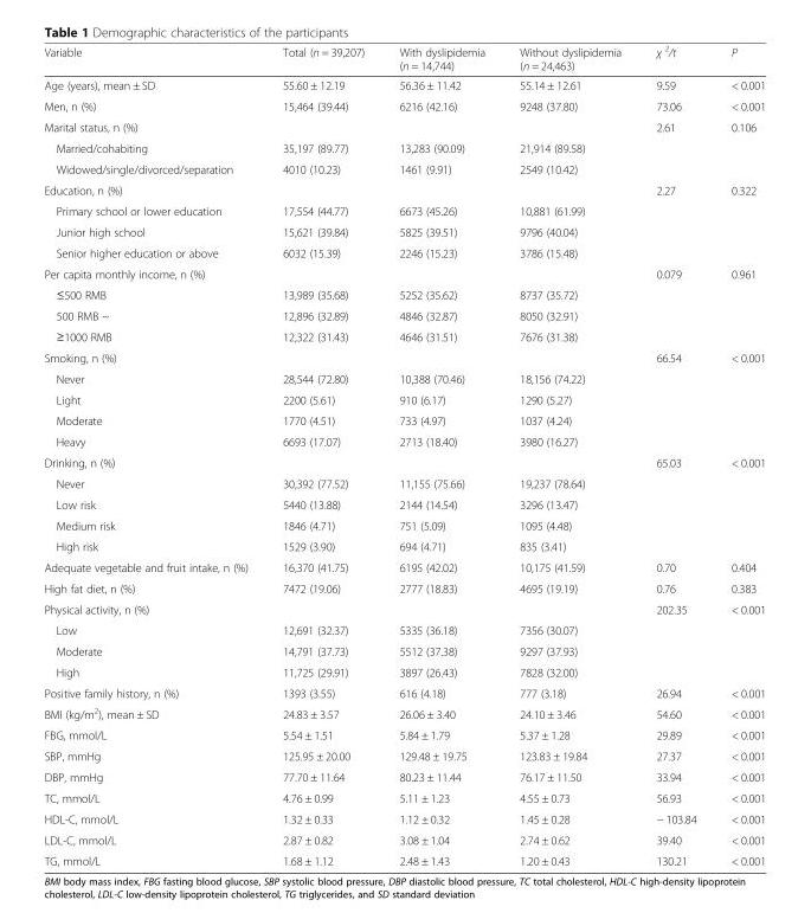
<table><thead><tr><td>Variable</td><td>Total (n = 39,207)</td><td>With dyslipidemia (n = 14,744)</td><td>Without dyslipidemia (n = 24,463)</td><td>χ <sup>2</sup>/t</td><td>P</td></tr></thead><tbody><tr><td>Age (years), mean ± SD</td><td>55.60 ± 12.19</td><td>56.36 ± 11.42</td><td>55.14 ± 12.61</td><td>9.59</td><td>&lt; 0.001</td></tr><tr><td>Men, n (%)</td><td>15,464 (39.44)</td><td>6216 (42.16)</td><td>9248 (37.80)</td><td>73.06</td><td>&lt; 0.001</td></tr><tr><td>Marital status, n (%)</td><td></td><td></td><td></td><td>2.61</td><td>0.106</td></tr><tr><td>Married/cohabiting</td><td>35,197 (89.77)</td><td>13,283 (90.09)</td><td>21,914 (89.58)</td><td></td><td></td></tr><tr><td>Widowed/single/divorced/separation</td><td>4010 (10.23)</td><td>1461 (9.91)</td><td>2549 (10.42)</td><td></td><td></td></tr><tr><td>Education, n (%)</td><td></td><td></td><td></td><td>2.27</td><td>0.322</td></tr><tr><td>Primary school or lower education</td><td>17,554 (44.77)</td><td>6673 (45.26)</td><td>10,881 (61.99)</td><td></td><td></td></tr><tr><td>Junior high school</td><td>15,621 (39.84)</td><td>5825 (39.51)</td><td>9796 (40.04)</td><td></td><td></td></tr><tr><td>Senior higher education or above</td><td>6032 (15.39)</td><td>2246 (15.23)</td><td>3786 (15.48)</td><td></td><td></td></tr><tr><td>Per capita monthly income, n (%)</td><td></td><td></td><td></td><td>0.079</td><td>0.961</td></tr><tr><td>≤500 RMB</td><td>13,989 (35.68)</td><td>5252 (35.62)</td><td>8737 (35.72)</td><td></td><td></td></tr><tr><td>500 RMB ~</td><td>12,896 (32.89)</td><td>4846 (32.87)</td><td>8050 (32.91)</td><td></td><td></td></tr><tr><td>≥1000 RMB</td><td>12,322 (31.43)</td><td>4646 (31.51)</td><td>7676 (31.38)</td><td></td><td></td></tr><tr><td>Smoking, n (%)</td><td></td><td></td><td></td><td>66.54</td><td>&lt; 0.001</td></tr><tr><td>Never</td><td>28,544 (72.80)</td><td>10,388 (70.46)</td><td>18,156 (74.22)</td><td></td><td></td></tr><tr><td>Light</td><td>2200 (5.61)</td><td>910 (6.17)</td><td>1290 (5.27)</td><td></td><td></td></tr><tr><td>Moderate</td><td>1770 (4.51)</td><td>733 (4.97)</td><td>1037 (4.24)</td><td></td><td></td></tr><tr><td>Heavy</td><td>6693 (17.07)</td><td>2713 (18.40)</td><td>3980 (16.27)</td><td></td><td></td></tr><tr><td>Drinking, n (%)</td><td></td><td></td><td></td><td>65.03</td><td>&lt; 0.001</td></tr><tr><td>Never</td><td>30,392 (77.52)</td><td>11,155 (75.66)</td><td>19,237 (78.64)</td><td></td><td></td></tr><tr><td>Low risk</td><td>5440 (13.88)</td><td>2144 (14.54)</td><td>3296 (13.47)</td><td></td><td></td></tr><tr><td>Medium risk</td><td>1846 (4.71)</td><td>751 (5.09)</td><td>1095 (4.48)</td><td></td><td></td></tr><tr><td>High risk</td><td>1529 (3.90)</td><td>694 (4.71)</td><td>835 (3.41)</td><td></td><td></td></tr><tr><td>Adequate vegetable and fruit intake, n (%)</td><td>16,370 (41.75)</td><td>6195 (42.02)</td><td>10,175 (41.59)</td><td>0.70</td><td>0.404</td></tr><tr><td>High fat diet, n (%)</td><td>7472 (19.06)</td><td>2777 (18.83)</td><td>4695 (19.19)</td><td>0.76</td><td>0.383</td></tr><tr><td>Physical activity, n (%)</td><td></td><td></td><td></td><td>202.35</td><td>&lt; 0.001</td></tr><tr><td>Low</td><td>12,691 (32.37)</td><td>5335 (36.18)</td><td>7356 (30.07)</td><td></td><td></td></tr><tr><td>Moderate</td><td>14,791 (37.73)</td><td>5512 (37.38)</td><td>9297 (37.93)</td><td></td><td></td></tr><tr><td>High</td><td>11,725 (29.91)</td><td>3897 (26.43)</td><td>7828 (32.00)</td><td></td><td></td></tr><tr><td>Positive family history, n (%)</td><td>1393 (3.55)</td><td>616 (4.18)</td><td>777 (3.18)</td><td>26.94</td><td>&lt; 0.001</td></tr><tr><td>BMI (kg/m<sup>2</sup>), mean ± SD</td><td>24.83 ± 3.57</td><td>26.06 ± 3.40</td><td>24.10 ± 3.46</td><td>54.60</td><td>&lt; 0.001</td></tr><tr><td>FBG, mmol/L</td><td>5.54 ± 1.51</td><td>5.84 ± 1.79</td><td>5.37 ± 1.28</td><td>29.89</td><td>&lt; 0.001</td></tr><tr><td>SBP, mmHg</td><td>125.95 ± 20.00</td><td>129.48 ± 19.75</td><td>123.83 ± 19.84</td><td>27.37</td><td>&lt; 0.001</td></tr><tr><td>DBP, mmHg</td><td>77.70 ± 11.64</td><td>80.23 ± 11.44</td><td>76.17 ± 11.50</td><td>33.94</td><td>&lt; 0.001</td></tr><tr><td>TC, mmol/L</td><td>4.76 ± 0.99</td><td>5.11 ± 1.23</td><td>4.55 ± 0.73</td><td>56.93</td><td>&lt; 0.001</td></tr><tr><td>HDL-C, mmol/L</td><td>1.32 ± 0.33</td><td>1.12 ± 0.32</td><td>1.45 ± 0.28</td><td>− 103.84</td><td>&lt; 0.001</td></tr><tr><td>LDL-C, mmol/L</td><td>2.87 ± 0.82</td><td>3.08 ± 1.04</td><td>2.74 ± 0.62</td><td>39.40</td><td>&lt; 0.001</td></tr><tr><td>TG, mmol/L</td><td>1.68 ± 1.12</td><td>2.48 ± 1.43</td><td>1.20 ± 0.43</td><td>130.21</td><td>&lt; 0.001</td></tr></tbody></table>